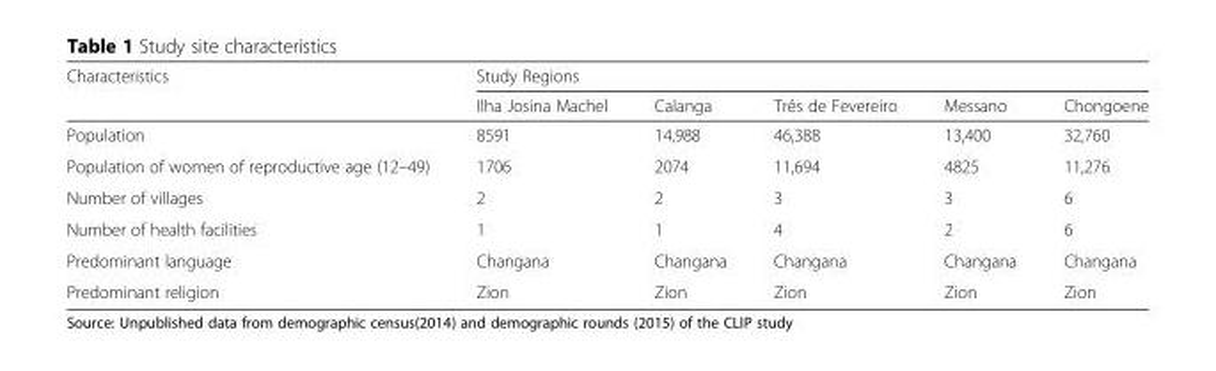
<table><thead><tr><td rowspan="2">Characteristics</td><td colspan="5">Study Regions</td></tr><tr><td>Ilha Josina Machel</td><td>Calanga</td><td>Três de Fevereiro</td><td>Messano</td><td>Chongoene</td></tr></thead><tbody><tr><td>Population</td><td>8591</td><td>14,988</td><td>46,388</td><td>13,400</td><td>32,760</td></tr><tr><td>Population of women of reproductive age (12–49)</td><td>1706</td><td>2074</td><td>11,694</td><td>4825</td><td>11,276</td></tr><tr><td>Number of villages</td><td>2</td><td>2</td><td>3</td><td>3</td><td>6</td></tr><tr><td>Number of health facilities</td><td>1</td><td>1</td><td>4</td><td>2</td><td>6</td></tr><tr><td>Predominant language</td><td>Changana</td><td>Changana</td><td>Changana</td><td>Changana</td><td>Changana</td></tr><tr><td>Predominant religion</td><td>Zion</td><td>Zion</td><td>Zion</td><td>Zion</td><td>Zion</td></tr></tbody></table>